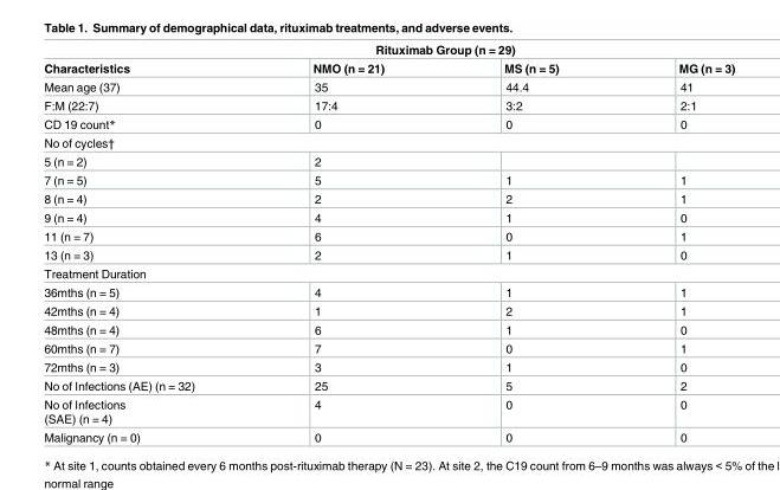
<table><thead><tr><td colspan="4">Rituximab Group (n = 29)</td></tr><tr><td>Characteristics</td><td>NMO (n = 21)</td><td>MS (n = 5)</td><td>MG (n = 3)</td></tr></thead><tbody><tr><td>Mean age (37)</td><td>35</td><td>44.4</td><td>41</td></tr><tr><td>F:M (22:7)</td><td>17:4</td><td>3:2</td><td>2:1</td></tr><tr><td>CD 19 count*</td><td>0</td><td>0</td><td>0</td></tr><tr><td colspan="4">No of cycles†</td></tr><tr><td>5 (n = 2)</td><td>2</td><td></td><td></td></tr><tr><td>7 (n = 5)</td><td>5</td><td>1</td><td>1</td></tr><tr><td>8 (n = 4)</td><td>2</td><td>2</td><td>1</td></tr><tr><td>9 (n = 4)</td><td>4</td><td>1</td><td>0</td></tr><tr><td>11 (n = 7)</td><td>6</td><td>0</td><td>1</td></tr><tr><td>13 (n = 3)</td><td>2</td><td>1</td><td>0</td></tr><tr><td colspan="4">Treatment Duration</td></tr><tr><td>36mths (n = 5)</td><td>4</td><td>1</td><td>1</td></tr><tr><td>42mths (n = 4)</td><td>1</td><td>2</td><td>1</td></tr><tr><td>48mths (n = 4)</td><td>6</td><td>1</td><td>0</td></tr><tr><td>60mths (n = 7)</td><td>7</td><td>0</td><td>1</td></tr><tr><td>72mths (n = 3)</td><td>3</td><td>1</td><td>0</td></tr><tr><td>No of Infections (AE) (n = 32)</td><td>25</td><td>5</td><td>2</td></tr><tr><td>No of Infections (SAE) (n = 4)</td><td>4</td><td>0</td><td>0</td></tr><tr><td>Malignancy (n = 0)</td><td>0</td><td>0</td><td>0</td></tr></tbody></table>